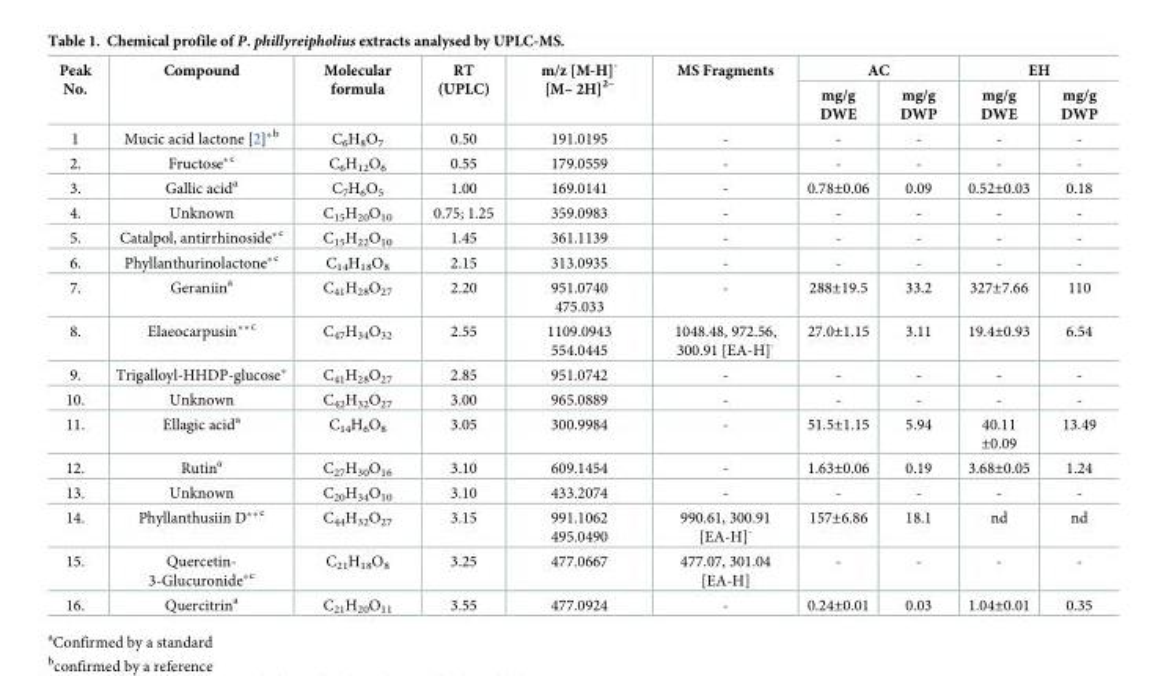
<table><thead><tr><td rowspan="2">Peak No.</td><td rowspan="2">Compound</td><td rowspan="2">Molecular formula</td><td rowspan="2">RT (UPLC)</td><td rowspan="2">m/z [M-H]<sup>-</sup> [M– 2H]<sup>2–</sup></td><td rowspan="2">MS Fragments</td><td colspan="2">AC</td><td colspan="2">EH</td></tr><tr><td>mg/g DWE</td><td>mg/g DWP</td><td>mg/g DWE</td><td>mg/g DWP</td></tr></thead><tbody><tr><td>1</td><td>Mucic acid lactone [2]*<sup>b</sup></td><td>C<sub>6</sub>H<sub>8</sub>O<sub>7</sub></td><td>0.50</td><td>191.0195</td><td>-</td><td>-</td><td>-</td><td>-</td><td>-</td></tr><tr><td>2.</td><td>Fructose*<sup>c</sup></td><td>C<sub>6</sub>H<sub>12</sub>O<sub>6</sub></td><td>0.55</td><td>179.0559</td><td>-</td><td>-</td><td>-</td><td>-</td><td>-</td></tr><tr><td>3.</td><td>Gallic acid<sup>a</sup></td><td>C<sub>7</sub>H<sub>6</sub>O<sub>5</sub></td><td>1.00</td><td>169.0141</td><td>-</td><td>0.78±0.06</td><td>0.09</td><td>0.52±0.03</td><td>0.18</td></tr><tr><td>4.</td><td>Unknown</td><td>C<sub>15</sub>H<sub>20</sub>O<sub>10</sub></td><td>0.75; 1.25</td><td>359.0983</td><td>-</td><td>-</td><td>-</td><td>-</td><td>-</td></tr><tr><td>5.</td><td>Catalpol, antirrhinoside*<sup>c</sup></td><td>C<sub>15</sub>H<sub>22</sub>O<sub>10</sub></td><td>1.45</td><td>361.1139</td><td>-</td><td>-</td><td>-</td><td>-</td><td>-</td></tr><tr><td>6.</td><td>Phyllanthurinolactone*<sup>c</sup></td><td>C<sub>14</sub>H<sub>18</sub>O<sub>8</sub></td><td>2.15</td><td>313.0935</td><td>-</td><td>-</td><td>-</td><td>-</td><td>-</td></tr><tr><td>7.</td><td>Geraniin<sup>a</sup></td><td>C<sub>41</sub>H<sub>28</sub>O<sub>27</sub></td><td>2.20</td><td>951.0740 475.033</td><td>-</td><td>288±19.5</td><td>33.2</td><td>327±7.66</td><td>110</td></tr><tr><td>8.</td><td>Elaeocarpusin**<sup>c</sup></td><td>C<sub>47</sub>H<sub>34</sub>O<sub>32</sub></td><td>2.55</td><td>1109.0943 554.0445</td><td>1048.48, 972.56, 300.91 [EA-H]<sup>-</sup></td><td>27.0±1.15</td><td>3.11</td><td>19.4±0.93</td><td>6.54</td></tr><tr><td>9.</td><td>Trigalloyl-HHDP-glucose*</td><td>C<sub>41</sub>H<sub>28</sub>O<sub>27</sub></td><td>2.85</td><td>951.0742</td><td>-</td><td>-</td><td>-</td><td>-</td><td>-</td></tr><tr><td>10.</td><td>Unknown</td><td>C<sub>42</sub>H<sub>32</sub>O<sub>27</sub></td><td>3.00</td><td>965.0889</td><td>-</td><td>-</td><td>-</td><td>-</td><td>-</td></tr><tr><td>11.</td><td>Ellagic acid<sup>a</sup></td><td>C<sub>14</sub>H<sub>6</sub>O<sub>8</sub></td><td>3.05</td><td>300.9984</td><td>-</td><td>51.5±1.15</td><td>5.94</td><td>40.11 ±0.09</td><td>13.49</td></tr><tr><td>12.</td><td>Rutin<sup>a</sup></td><td>C<sub>27</sub>H<sub>30</sub>O<sub>16</sub></td><td>3.10</td><td>609.1454</td><td>-</td><td>1.63±0.06</td><td>0.19</td><td>3.68±0.05</td><td>1.24</td></tr><tr><td>13.</td><td>Unknown</td><td>C<sub>20</sub>H<sub>34</sub>O<sub>10</sub></td><td>3.10</td><td>433.2074</td><td>-</td><td>-</td><td>-</td><td>-</td><td>-</td></tr><tr><td>14.</td><td>Phyllanthusiin D**<sup>c</sup></td><td>C<sub>44</sub>H<sub>32</sub>O<sub>27</sub></td><td>3.15</td><td>991.1062 495.0490</td><td>990.61, 300.91 [EA-H]<sup>-</sup></td><td>157±6.86</td><td>18.1</td><td>nd</td><td>nd</td></tr><tr><td>15.</td><td>Quercetin- 3-Glucuronide*<sup>c</sup></td><td>C<sub>21</sub>H<sub>18</sub>O<sub>8</sub></td><td>3.25</td><td>477.0667</td><td>477.07, 301.04 [EA-H]</td><td>-</td><td>-</td><td>-</td><td>-</td></tr><tr><td>16.</td><td>Quercitrin<sup>a</sup></td><td>C<sub>21</sub>H<sub>20</sub>O<sub>11</sub></td><td>3.55</td><td>477.0924</td><td>-</td><td>0.24±0.01</td><td>0.03</td><td>1.04±0.01</td><td>0.35</td></tr></tbody></table>